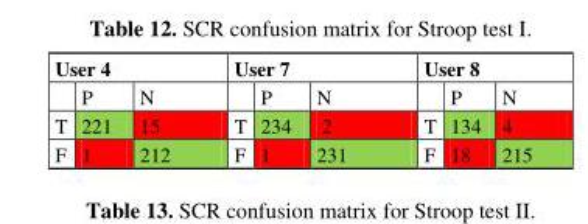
<table><thead><tr><td colspan="3">User 4</td><td colspan="3">User 7</td><td colspan="3">User 8</td></tr><tr><td></td><td>P</td><td>N</td><td></td><td>P</td><td>N</td><td></td><td>P</td><td>N</td></tr></thead><tbody><tr><td>T</td><td>221</td><td>15</td><td>T</td><td>234</td><td>2</td><td>T</td><td>134</td><td>4</td></tr><tr><td>F</td><td>1</td><td>212</td><td>F</td><td>1</td><td>231</td><td>F</td><td>18</td><td>215</td></tr></tbody></table>